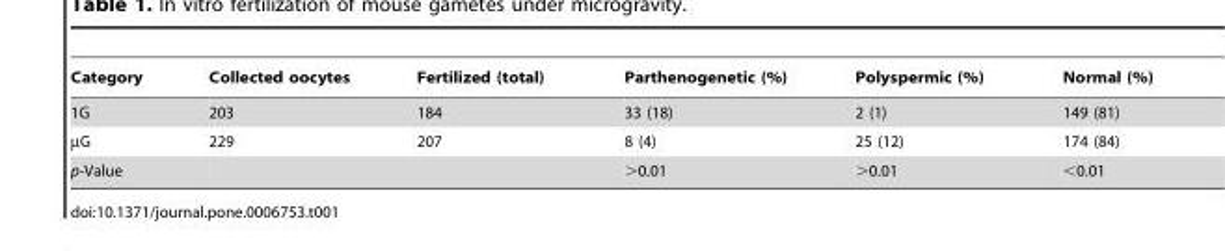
<table><thead><tr><td>Category</td><td>Collected oocytes</td><td>Fertilized (total)</td><td>Parthenogenetic (%)</td><td>Polyspermic (%)</td><td>Normal (%)</td></tr></thead><tbody><tr><td>1G</td><td>203</td><td>184</td><td>33 (18)</td><td>2 (1)</td><td>149 (81)</td></tr><tr><td>µG</td><td>229</td><td>207</td><td>8 (4)</td><td>25 (12)</td><td>174 (84)</td></tr><tr><td>p-Value</td><td></td><td></td><td>&gt;0.01</td><td>&gt;0.01</td><td>&lt;0.01</td></tr></tbody></table>